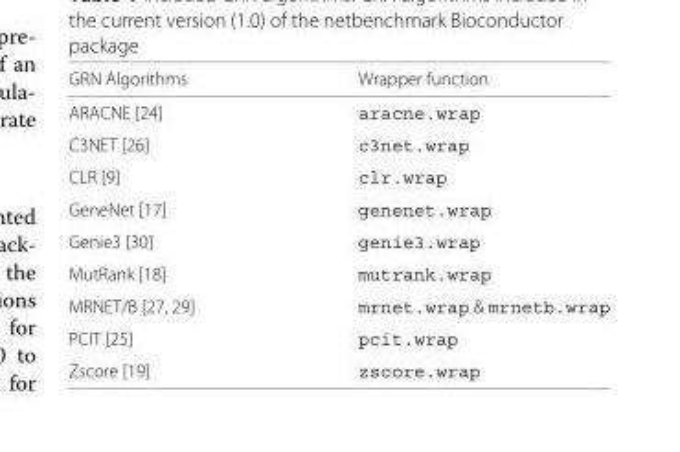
<table><thead><tr><td>GRN Algorithms</td><td>Wrapper function</td></tr></thead><tbody><tr><td>ARACNE [24]</td><td>aracne.wrap</td></tr><tr><td>C3NET [26]</td><td>c3net.wrap</td></tr><tr><td>CLR [9]</td><td>clr.wrap</td></tr><tr><td>GeneNet [17]</td><td>genenet.wrap</td></tr><tr><td>Genie3 [30]</td><td>genie3.wrap</td></tr><tr><td>MutRank [18]</td><td>mutrank.wrap</td></tr><tr><td>MRNET/B [27, 29]</td><td>mrnet.wrap &amp; mrnetb.wrap</td></tr><tr><td>PCIT [25]</td><td>pcit.wrap</td></tr><tr><td>Zscore [19]</td><td>zscore.wrap</td></tr></tbody></table>